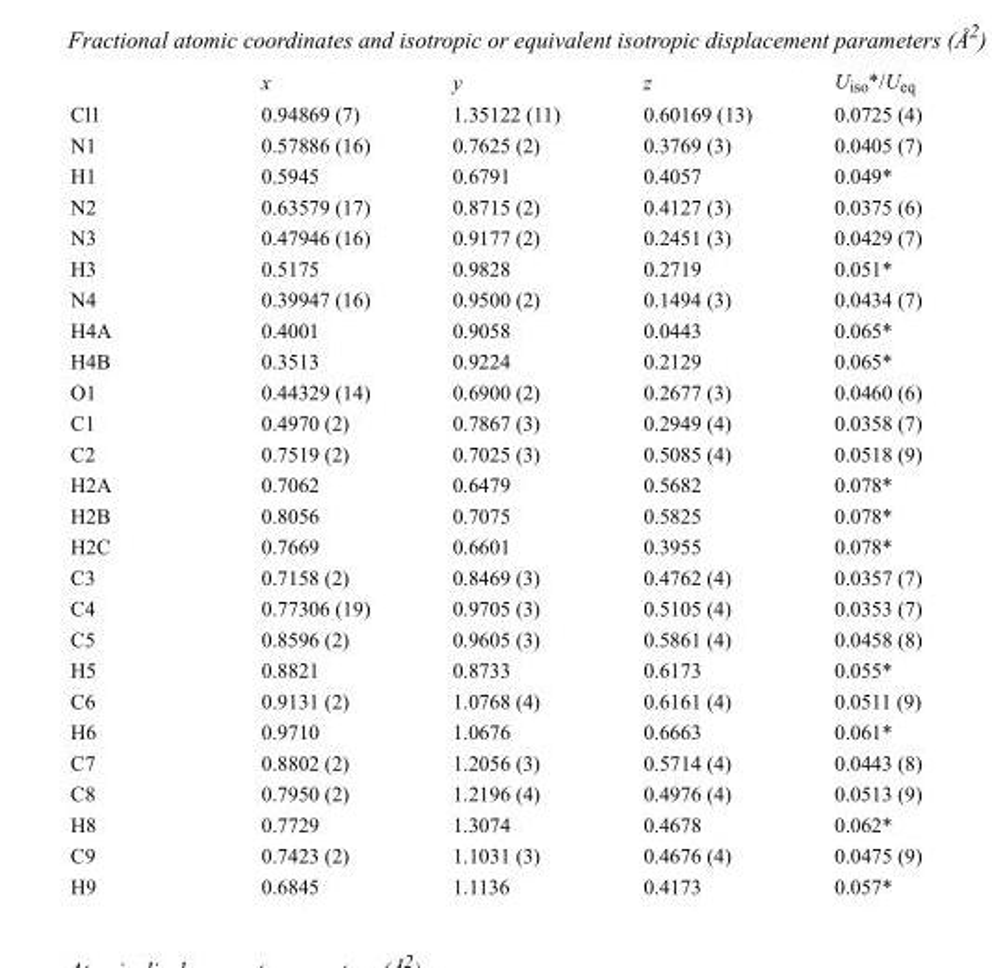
<table><thead><tr><td></td><td>x</td><td>y</td><td>z</td><td>U<sub>iso</sub>*/U<sub>eq</sub></td></tr></thead><tbody><tr><td>Cl1</td><td>0.94869 (7)</td><td>1.35122 (11)</td><td>0.60169 (13)</td><td>0.0725 (4)</td></tr><tr><td>N1</td><td>0.57886 (16)</td><td>0.7625 (2)</td><td>0.3769 (3)</td><td>0.0405 (7)</td></tr><tr><td>H1</td><td>0.5945</td><td>0.6791</td><td>0.4057</td><td>0.049*</td></tr><tr><td>N2</td><td>0.63579 (17)</td><td>0.8715 (2)</td><td>0.4127 (3)</td><td>0.0375 (6)</td></tr><tr><td>N3</td><td>0.47946 (16)</td><td>0.9177 (2)</td><td>0.2451 (3)</td><td>0.0429 (7)</td></tr><tr><td>H3</td><td>0.5175</td><td>0.9828</td><td>0.2719</td><td>0.051*</td></tr><tr><td>N4</td><td>0.39947 (16)</td><td>0.9500 (2)</td><td>0.1494 (3)</td><td>0.0434 (7)</td></tr><tr><td>H4A</td><td>0.4001</td><td>0.9058</td><td>0.0443</td><td>0.065*</td></tr><tr><td>H4B</td><td>0.3513</td><td>0.9224</td><td>0.2129</td><td>0.065*</td></tr><tr><td>O1</td><td>0.44329 (14)</td><td>0.6900 (2)</td><td>0.2677 (3)</td><td>0.0460 (6)</td></tr><tr><td>C1</td><td>0.4970 (2)</td><td>0.7867 (3)</td><td>0.2949 (4)</td><td>0.0358 (7)</td></tr><tr><td>C2</td><td>0.7519 (2)</td><td>0.7025 (3)</td><td>0.5085 (4)</td><td>0.0518 (9)</td></tr><tr><td>H2A</td><td>0.7062</td><td>0.6479</td><td>0.5682</td><td>0.078*</td></tr><tr><td>H2B</td><td>0.8056</td><td>0.7075</td><td>0.5825</td><td>0.078*</td></tr><tr><td>H2C</td><td>0.7669</td><td>0.6601</td><td>0.3955</td><td>0.078*</td></tr><tr><td>C3</td><td>0.7158 (2)</td><td>0.8469 (3)</td><td>0.4762 (4)</td><td>0.0357 (7)</td></tr><tr><td>C4</td><td>0.77306 (19)</td><td>0.9705 (3)</td><td>0.5105 (4)</td><td>0.0353 (7)</td></tr><tr><td>C5</td><td>0.8596 (2)</td><td>0.9605 (3)</td><td>0.5861 (4)</td><td>0.0458 (8)</td></tr><tr><td>H5</td><td>0.8821</td><td>0.8733</td><td>0.6173</td><td>0.055*</td></tr><tr><td>C6</td><td>0.9131 (2)</td><td>1.0768 (4)</td><td>0.6161 (4)</td><td>0.0511 (9)</td></tr><tr><td>H6</td><td>0.9710</td><td>1.0676</td><td>0.6663</td><td>0.061*</td></tr><tr><td>C7</td><td>0.8802 (2)</td><td>1.2056 (3)</td><td>0.5714 (4)</td><td>0.0443 (8)</td></tr><tr><td>C8</td><td>0.7950 (2)</td><td>1.2196 (4)</td><td>0.4976 (4)</td><td>0.0513 (9)</td></tr><tr><td>H8</td><td>0.7729</td><td>1.3074</td><td>0.4678</td><td>0.062*</td></tr><tr><td>C9</td><td>0.7423 (2)</td><td>1.1031 (3)</td><td>0.4676 (4)</td><td>0.0475 (9)</td></tr><tr><td>H9</td><td>0.6845</td><td>1.1136</td><td>0.4173</td><td>0.057*</td></tr></tbody></table>